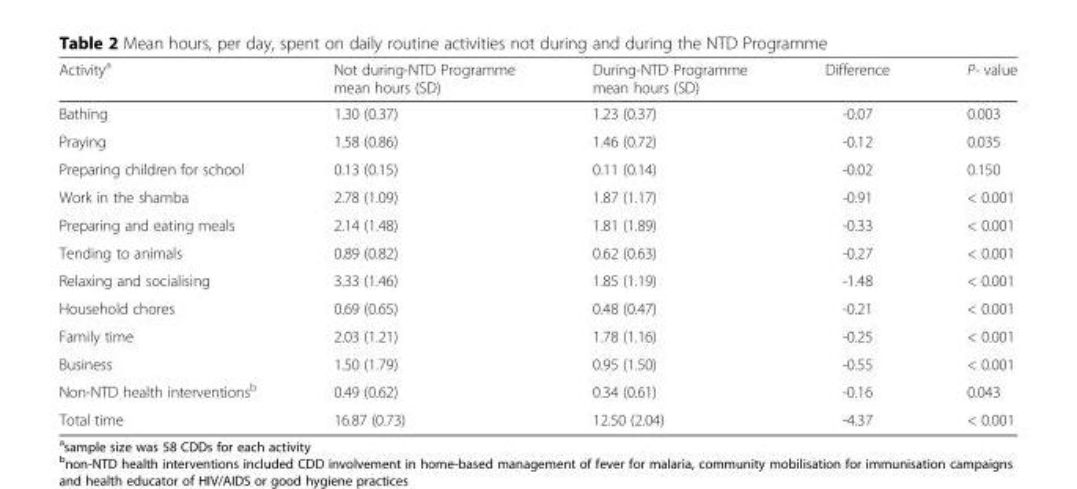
<table><thead><tr><td>Activity<sup>a</sup></td><td>Not during-NTD Programme mean hours (SD)</td><td>During-NTD Programme mean hours (SD)</td><td>Difference</td><td>P- value</td></tr></thead><tbody><tr><td>Bathing</td><td>1.30 (0.37)</td><td>1.23 (0.37)</td><td>-0.07</td><td>0.003</td></tr><tr><td>Praying</td><td>1.58 (0.86)</td><td>1.46 (0.72)</td><td>-0.12</td><td>0.035</td></tr><tr><td>Preparing children for school</td><td>0.13 (0.15)</td><td>0.11 (0.14)</td><td>-0.02</td><td>0.150</td></tr><tr><td>Work in the shamba</td><td>2.78 (1.09)</td><td>1.87 (1.17)</td><td>-0.91</td><td>&lt; 0.001</td></tr><tr><td>Preparing and eating meals</td><td>2.14 (1.48)</td><td>1.81 (1.89)</td><td>-0.33</td><td>&lt; 0.001</td></tr><tr><td>Tending to animals</td><td>0.89 (0.82)</td><td>0.62 (0.63)</td><td>-0.27</td><td>&lt; 0.001</td></tr><tr><td>Relaxing and socialising</td><td>3.33 (1.46)</td><td>1.85 (1.19)</td><td>-1.48</td><td>&lt; 0.001</td></tr><tr><td>Household chores</td><td>0.69 (0.65)</td><td>0.48 (0.47)</td><td>-0.21</td><td>&lt; 0.001</td></tr><tr><td>Family time</td><td>2.03 (1.21)</td><td>1.78 (1.16)</td><td>-0.25</td><td>&lt; 0.001</td></tr><tr><td>Business</td><td>1.50 (1.79)</td><td>0.95 (1.50)</td><td>-0.55</td><td>&lt; 0.001</td></tr><tr><td>Non-NTD health interventions<sup>b</sup></td><td>0.49 (0.62)</td><td>0.34 (0.61)</td><td>-0.16</td><td>0.043</td></tr><tr><td>Total time</td><td>16.87 (0.73)</td><td>12.50 (2.04)</td><td>-4.37</td><td>&lt; 0.001</td></tr></tbody></table>